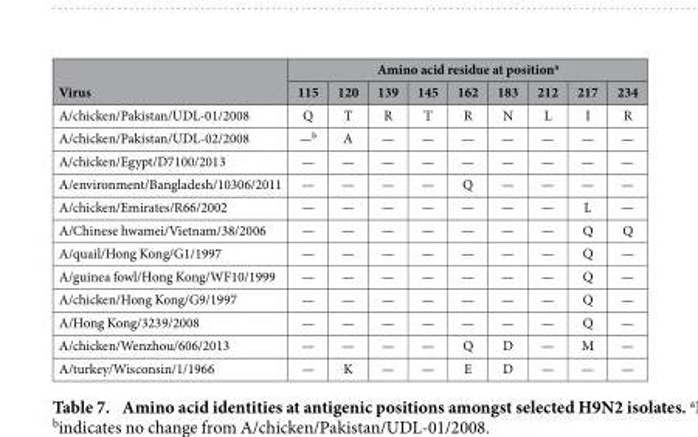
<table><thead><tr><td rowspan="2">Virus</td><td colspan="9">Amino acid residue at position<sup>a</sup></td></tr><tr><td>115</td><td>120</td><td>139</td><td>145</td><td>162</td><td>183</td><td>212</td><td>217</td><td>234</td></tr></thead><tbody><tr><td>A/chicken/Pakistan/UDL-01/2008</td><td>Q</td><td>T</td><td>R</td><td>T</td><td>R</td><td>N</td><td>L</td><td>I</td><td>R</td></tr><tr><td>A/chicken/Pakistan/UDL-02/2008</td><td>—b</td><td>A</td><td>—</td><td>—</td><td>—</td><td>—</td><td>—</td><td>—</td><td>—</td></tr><tr><td>A/chicken/Egypt/D7100/2013</td><td>—</td><td>—</td><td>—</td><td>—</td><td>—</td><td>—</td><td>—</td><td>—</td><td>—</td></tr><tr><td>A/environment/Bangladesh/10306/2011</td><td>—</td><td>—</td><td>—</td><td>—</td><td>Q</td><td>—</td><td>—</td><td>—</td><td>—</td></tr><tr><td>A/chicken/Emirates/R66/2002</td><td>—</td><td>—</td><td>—</td><td>—</td><td>—</td><td>—</td><td>—</td><td>L</td><td>—</td></tr><tr><td>A/Chinese hwamei/Vietnam/38/2006</td><td>—</td><td>—</td><td>—</td><td>—</td><td>—</td><td>—</td><td>—</td><td>Q</td><td>Q</td></tr><tr><td>A/quail/Hong Kong/G1/1997</td><td>—</td><td>—</td><td>—</td><td>—</td><td>—</td><td>—</td><td>—</td><td>Q</td><td>—</td></tr><tr><td>A/guinea fowl/Hong Kong/WF10/1999</td><td>—</td><td>—</td><td>—</td><td>—</td><td>—</td><td>—</td><td>—</td><td>Q</td><td>—</td></tr><tr><td>A/chicken/Hong Kong/G9/1997</td><td>—</td><td>—</td><td>—</td><td>—</td><td>—</td><td>—</td><td>—</td><td>Q</td><td>—</td></tr><tr><td>A/Hong Kong/3239/2008</td><td>—</td><td>—</td><td>—</td><td>—</td><td>—</td><td>—</td><td>—</td><td>Q</td><td>—</td></tr><tr><td>A/chicken/Wenzhou/606/2013</td><td>—</td><td>—</td><td>—</td><td>—</td><td>Q</td><td>D</td><td>—</td><td>M</td><td>—</td></tr><tr><td>A/turkey/Wisconsin/1/1966</td><td>—</td><td>K</td><td>—</td><td>—</td><td>E</td><td>D</td><td>—</td><td>—</td><td>—</td></tr></tbody></table>